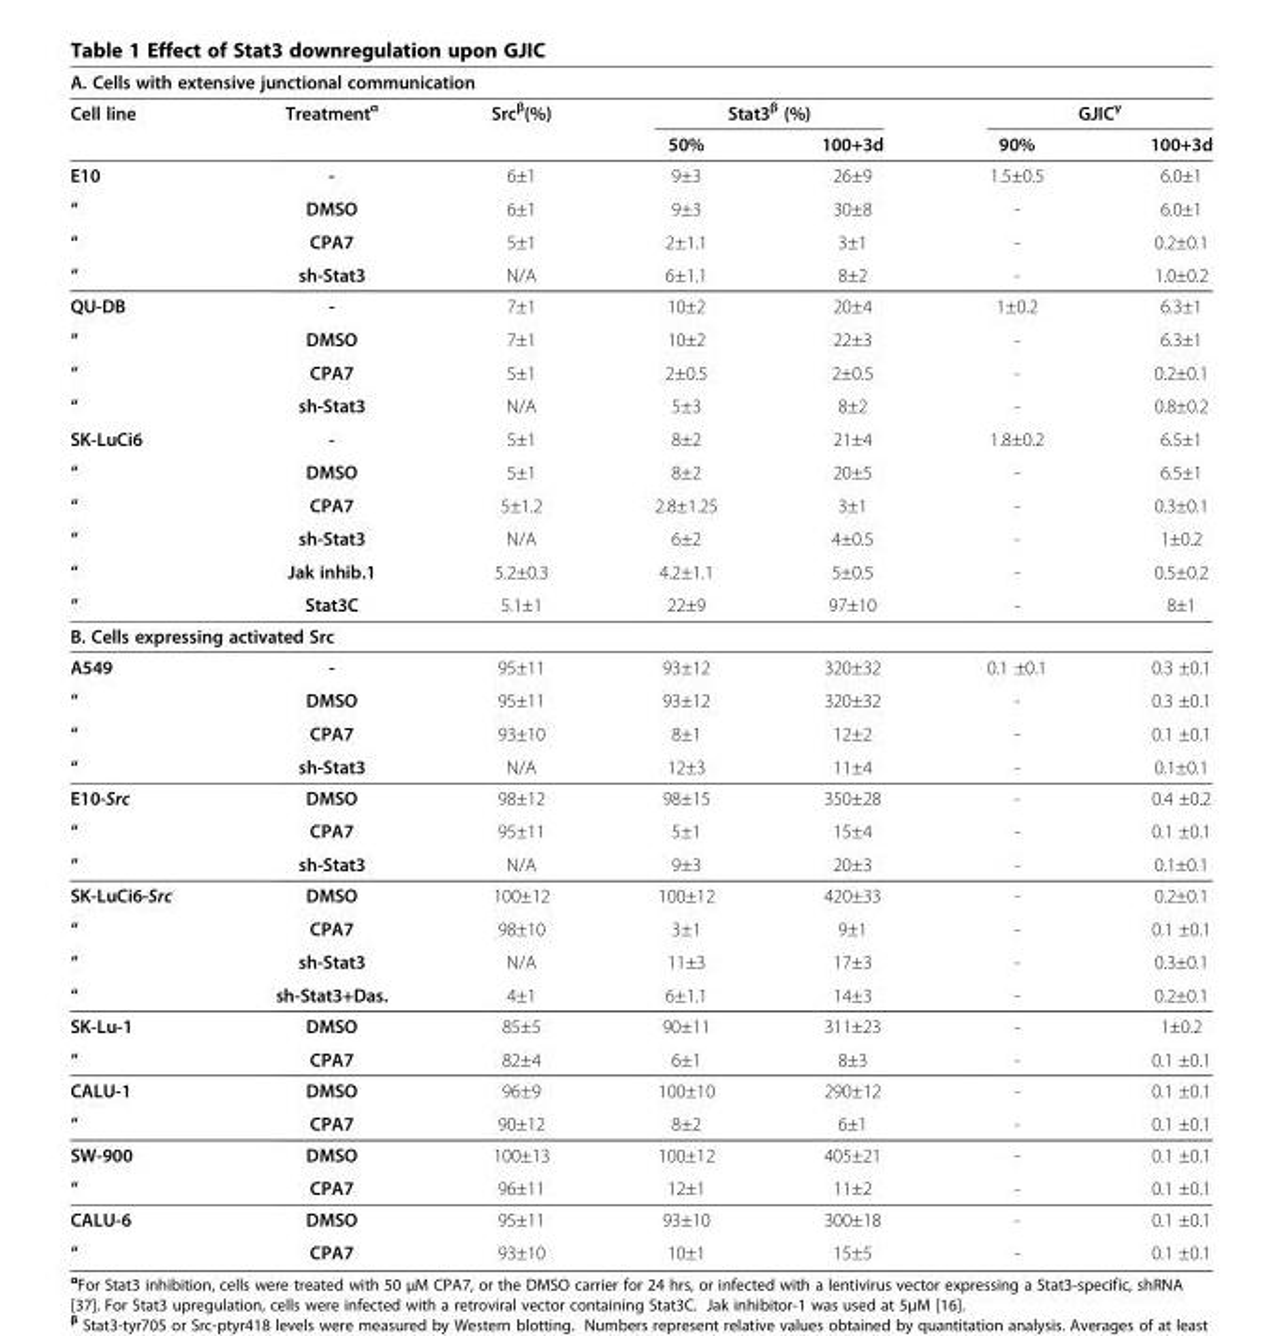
<table><thead><tr><td colspan="7">A. Cells with extensive junctional communication</td></tr><tr><td rowspan="2">Cell line</td><td rowspan="2">Treatment<sup>α</sup></td><td rowspan="2">Src<sup>β</sup>(%)</td><td colspan="2">Stat3<sup>β</sup> (%)</td><td colspan="2">GJIC<sup>γ</sup></td></tr><tr><td>50%</td><td>100+3d</td><td>90%</td><td>100+3d</td></tr></thead><tbody><tr><td>E10</td><td>-</td><td>6±1</td><td>9±3</td><td>26±9</td><td>1.5±0.5</td><td>6.0±1</td></tr><tr><td>“</td><td>DMSO</td><td>6±1</td><td>9±3</td><td>30±8</td><td>-</td><td>6.0±1</td></tr><tr><td>“</td><td>CPA7</td><td>5±1</td><td>2±1.1</td><td>3±1</td><td>-</td><td>0.2±0.1</td></tr><tr><td>“</td><td>sh-Stat3</td><td>N/A</td><td>6±1.1</td><td>8±2</td><td>-</td><td>1.0±0.2</td></tr><tr><td>QU-DB</td><td>-</td><td>7±1</td><td>10±2</td><td>20±4</td><td>1±0.2</td><td>6.3±1</td></tr><tr><td>“</td><td>DMSO</td><td>7±1</td><td>10±2</td><td>22±3</td><td>-</td><td>6.3±1</td></tr><tr><td>“</td><td>CPA7</td><td>5±1</td><td>2±0.5</td><td>2±0.5</td><td>-</td><td>0.2±0.1</td></tr><tr><td>“</td><td>sh-Stat3</td><td>N/A</td><td>5±3</td><td>8±2</td><td>-</td><td>0.8±0.2</td></tr><tr><td>SK-LuCi6</td><td>-</td><td>5±1</td><td>8±2</td><td>21±4</td><td>1.8±0.2</td><td>6.5±1</td></tr><tr><td>“</td><td>DMSO</td><td>5±1</td><td>8±2</td><td>20±5</td><td>-</td><td>6.5±1</td></tr><tr><td>“</td><td>CPA7</td><td>5±1.2</td><td>2.8±1.25</td><td>3±1</td><td>-</td><td>0.3±0.1</td></tr><tr><td>“</td><td>sh-Stat3</td><td>N/A</td><td>6±2</td><td>4±0.5</td><td>-</td><td>1±0.2</td></tr><tr><td>“</td><td>Jak inhib.1</td><td>5.2±0.3</td><td>4.2±1.1</td><td>5±0.5</td><td>-</td><td>0.5±0.2</td></tr><tr><td>“</td><td>Stat3C</td><td>5.1±1</td><td>22±9</td><td>97±10</td><td>-</td><td>8±1</td></tr><tr><td colspan="7">B. Cells expressing activated Src</td></tr><tr><td>A549</td><td>-</td><td>95±11</td><td>93±12</td><td>320±32</td><td>0.1 ±0.1</td><td>0.3 ±0.1</td></tr><tr><td>“</td><td>DMSO</td><td>95±11</td><td>93±12</td><td>320±32</td><td>-</td><td>0.3 ±0.1</td></tr><tr><td>“</td><td>CPA7</td><td>93±10</td><td>8±1</td><td>12±2</td><td>-</td><td>0.1 ±0.1</td></tr><tr><td>“</td><td>sh-Stat3</td><td>N/A</td><td>12±3</td><td>11±4</td><td>-</td><td>0.1±0.1</td></tr><tr><td>E10-Src</td><td>DMSO</td><td>98±12</td><td>98±15</td><td>350±28</td><td>-</td><td>0.4 ±0.2</td></tr><tr><td>“</td><td>CPA7</td><td>95±11</td><td>5±1</td><td>15±4</td><td>-</td><td>0.1 ±0.1</td></tr><tr><td>“</td><td>sh-Stat3</td><td>N/A</td><td>9±3</td><td>20±3</td><td>-</td><td>0.1±0.1</td></tr><tr><td>SK-LuCi6-Src</td><td>DMSO</td><td>100±12</td><td>100±12</td><td>420±33</td><td>-</td><td>0.2±0.1</td></tr><tr><td>“</td><td>CPA7</td><td>98±10</td><td>3±1</td><td>9±1</td><td>-</td><td>0.1 ±0.1</td></tr><tr><td>“</td><td>sh-Stat3</td><td>N/A</td><td>11±3</td><td>17±3</td><td>-</td><td>0.3±0.1</td></tr><tr><td>“</td><td>sh-Stat3+Das.</td><td>4±1</td><td>6±1.1</td><td>14±3</td><td>-</td><td>0.2±0.1</td></tr><tr><td>SK-Lu-1</td><td>DMSO</td><td>85±5</td><td>90±11</td><td>311±23</td><td>-</td><td>1±0.2</td></tr><tr><td>“</td><td>CPA7</td><td>82±4</td><td>6±1</td><td>8±3</td><td>-</td><td>0.1 ±0.1</td></tr><tr><td>CALU-1</td><td>DMSO</td><td>96±9</td><td>100±10</td><td>290±12</td><td>-</td><td>0.1 ±0.1</td></tr><tr><td>“</td><td>CPA7</td><td>90±12</td><td>8±2</td><td>6±1</td><td>-</td><td>0.1 ±0.1</td></tr><tr><td>SW-900</td><td>DMSO</td><td>100±13</td><td>100±12</td><td>405±21</td><td>-</td><td>0.1 ±0.1</td></tr><tr><td>“</td><td>CPA7</td><td>96±11</td><td>12±1</td><td>11±2</td><td>-</td><td>0.1 ±0.1</td></tr><tr><td>CALU-6</td><td>DMSO</td><td>95±11</td><td>93±10</td><td>300±18</td><td>-</td><td>0.1 ±0.1</td></tr><tr><td>“</td><td>CPA7</td><td>93±10</td><td>10±1</td><td>15±5</td><td>-</td><td>0.1 ±0.1</td></tr></tbody></table>